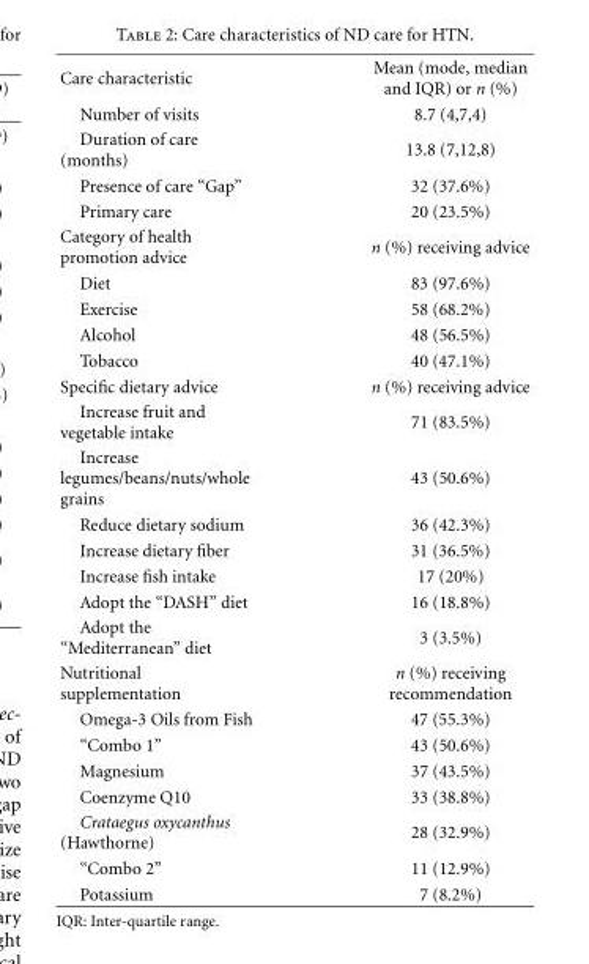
<table><tbody><tr><td>Care characteristic</td><td>Mean (mode, median and IQR) or n (%)</td></tr><tr><td>Number of visits</td><td>8.7 (4,7,4)</td></tr><tr><td>Duration of care (months)</td><td>13.8 (7,12,8)</td></tr><tr><td>Presence of care “Gap”</td><td>32 (37.6%)</td></tr><tr><td>Primary care</td><td>20 (23.5%)</td></tr><tr><td>Category of health promotion advice</td><td>n (%) receiving advice</td></tr><tr><td>Diet</td><td>83 (97.6%)</td></tr><tr><td>Exercise</td><td>58 (68.2%)</td></tr><tr><td>Alcohol</td><td>48 (56.5%)</td></tr><tr><td>Tobacco</td><td>40 (47.1%)</td></tr><tr><td>Specific dietary advice</td><td>n (%) receiving advice</td></tr><tr><td>Increase fruit and vegetable intake</td><td>71 (83.5%)</td></tr><tr><td>Increase legumes/beans/nuts/whole grains</td><td>43 (50.6%)</td></tr><tr><td>Reduce dietary sodium</td><td>36 (42.3%)</td></tr><tr><td>Increase dietary fiber</td><td>31 (36.5%)</td></tr><tr><td>Increase fish intake</td><td>17 (20%)</td></tr><tr><td>Adopt the “DASH” diet</td><td>16 (18.8%)</td></tr><tr><td>Adopt the “Mediterranean” diet</td><td>3 (3.5%)</td></tr><tr><td>Nutritional supplementation</td><td>n (%) receiving recommendation</td></tr><tr><td>Omega-3 Oils from Fish</td><td>47 (55.3%)</td></tr><tr><td>“Combo 1”</td><td>43 (50.6%)</td></tr><tr><td>Magnesium</td><td>37 (43.5%)</td></tr><tr><td>Coenzyme Q10</td><td>33 (38.8%)</td></tr><tr><td>Crataegus oxycanthus (Hawthorne)</td><td>28 (32.9%)</td></tr><tr><td>“Combo 2”</td><td>11 (12.9%)</td></tr><tr><td>Potassium</td><td>7 (8.2%)</td></tr></tbody></table>